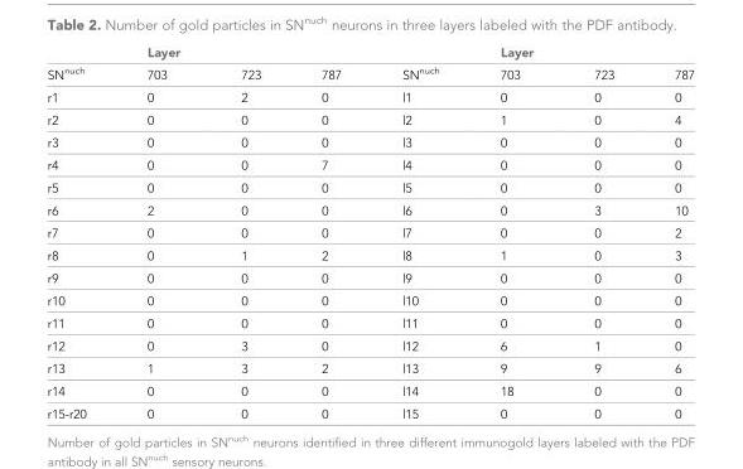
<table><thead><tr><td></td><td>Layer</td><td></td><td></td><td></td><td>Layer</td><td></td><td></td></tr></thead><tbody><tr><td>SN<sup>nuch</sup></td><td>703</td><td>723</td><td>787</td><td>SN<sup>nuch</sup></td><td>703</td><td>723</td><td>787</td></tr><tr><td>r1</td><td>0</td><td>2</td><td>0</td><td>l1</td><td>0</td><td>0</td><td>0</td></tr><tr><td>r2</td><td>0</td><td>0</td><td>0</td><td>l2</td><td>1</td><td>0</td><td>4</td></tr><tr><td>r3</td><td>0</td><td>0</td><td>0</td><td>l3</td><td>0</td><td>0</td><td>0</td></tr><tr><td>r4</td><td>0</td><td>0</td><td>7</td><td>l4</td><td>0</td><td>0</td><td>0</td></tr><tr><td>r5</td><td>0</td><td>0</td><td>0</td><td>l5</td><td>0</td><td>0</td><td>0</td></tr><tr><td>r6</td><td>2</td><td>0</td><td>0</td><td>l6</td><td>0</td><td>3</td><td>10</td></tr><tr><td>r7</td><td>0</td><td>0</td><td>0</td><td>l7</td><td>0</td><td>0</td><td>2</td></tr><tr><td>r8</td><td>0</td><td>1</td><td>2</td><td>l8</td><td>1</td><td>0</td><td>3</td></tr><tr><td>r9</td><td>0</td><td>0</td><td>0</td><td>l9</td><td>0</td><td>0</td><td>0</td></tr><tr><td>r10</td><td>0</td><td>0</td><td>0</td><td>l10</td><td>0</td><td>0</td><td>0</td></tr><tr><td>r11</td><td>0</td><td>0</td><td>0</td><td>l11</td><td>0</td><td>0</td><td>0</td></tr><tr><td>r12</td><td>0</td><td>3</td><td>0</td><td>l12</td><td>6</td><td>1</td><td>0</td></tr><tr><td>r13</td><td>1</td><td>3</td><td>2</td><td>l13</td><td>9</td><td>9</td><td>6</td></tr><tr><td>r14</td><td>0</td><td>0</td><td>0</td><td>l14</td><td>18</td><td>0</td><td>0</td></tr><tr><td>r15-r20</td><td>0</td><td>0</td><td>0</td><td>l15</td><td>0</td><td>0</td><td>0</td></tr></tbody></table>